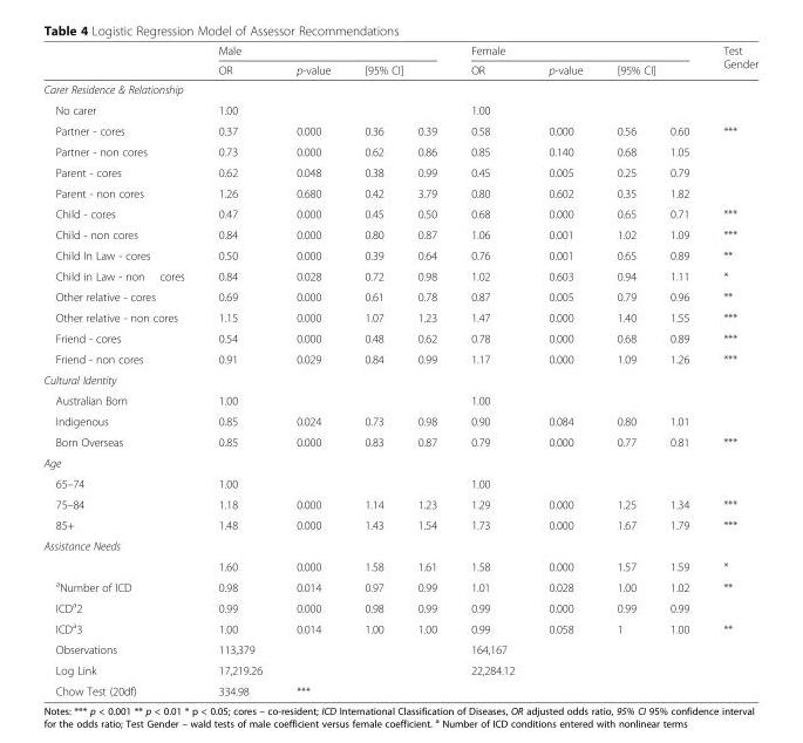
<table><thead><tr><td rowspan="2"></td><td colspan="4">Male</td><td colspan="4">Female</td><td rowspan="2">Test Gender</td></tr><tr><td>OR</td><td>p-value</td><td colspan="2">[95% CI]</td><td>OR</td><td>p-value</td><td colspan="2">[95% CI]</td></tr><tr><td colspan="10">Carer Residence &amp; Relationship</td></tr><tr><td>No carer</td><td>1.00</td><td></td><td></td><td></td><td>1.00</td><td></td><td></td><td></td><td></td></tr></thead><tbody><tr><td>Partner - cores</td><td>0.37</td><td>0.000</td><td>0.36</td><td>0.39</td><td>0.58</td><td>0.000</td><td>0.56</td><td>0.60</td><td>***</td></tr><tr><td>Partner - non cores</td><td>0.73</td><td>0.000</td><td>0.62</td><td>0.86</td><td>0.85</td><td>0.140</td><td>0.68</td><td>1.05</td><td></td></tr><tr><td>Parent - cores</td><td>0.62</td><td>0.048</td><td>0.38</td><td>0.99</td><td>0.45</td><td>0.005</td><td>0.25</td><td>0.79</td><td></td></tr><tr><td>Parent - non cores</td><td>1.26</td><td>0.680</td><td>0.42</td><td>3.79</td><td>0.80</td><td>0.602</td><td>0.35</td><td>1.82</td><td></td></tr><tr><td>Child - cores</td><td>0.47</td><td>0.000</td><td>0.45</td><td>0.50</td><td>0.68</td><td>0.000</td><td>0.65</td><td>0.71</td><td>***</td></tr><tr><td>Child - non cores</td><td>0.84</td><td>0.000</td><td>0.80</td><td>0.87</td><td>1.06</td><td>0.001</td><td>1.02</td><td>1.09</td><td>***</td></tr><tr><td>Child In Law - cores</td><td>0.50</td><td>0.000</td><td>0.39</td><td>0.64</td><td>0.76</td><td>0.001</td><td>0.65</td><td>0.89</td><td>**</td></tr><tr><td>Child in Law - non cores</td><td>0.84</td><td>0.028</td><td>0.72</td><td>0.98</td><td>1.02</td><td>0.603</td><td>0.94</td><td>1.11</td><td>*</td></tr><tr><td>Other relative - cores</td><td>0.69</td><td>0.000</td><td>0.61</td><td>0.78</td><td>0.87</td><td>0.005</td><td>0.79</td><td>0.96</td><td>**</td></tr><tr><td>Other relative - non cores</td><td>1.15</td><td>0.000</td><td>1.07</td><td>1.23</td><td>1.47</td><td>0.000</td><td>1.40</td><td>1.55</td><td>***</td></tr><tr><td>Friend - cores</td><td>0.54</td><td>0.000</td><td>0.48</td><td>0.62</td><td>0.78</td><td>0.000</td><td>0.68</td><td>0.89</td><td>***</td></tr><tr><td>Friend - non cores</td><td>0.91</td><td>0.029</td><td>0.84</td><td>0.99</td><td>1.17</td><td>0.000</td><td>1.09</td><td>1.26</td><td>***</td></tr><tr><td colspan="10">Cultural Identity</td></tr><tr><td>Australian Born</td><td>1.00</td><td></td><td></td><td></td><td>1.00</td><td></td><td></td><td></td><td></td></tr><tr><td>Indigenous</td><td>0.85</td><td>0.024</td><td>0.73</td><td>0.98</td><td>0.90</td><td>0.084</td><td>0.80</td><td>1.01</td><td></td></tr><tr><td>Born Overseas</td><td>0.85</td><td>0.000</td><td>0.83</td><td>0.87</td><td>0.79</td><td>0.000</td><td>0.77</td><td>0.81</td><td>***</td></tr><tr><td colspan="10">Age</td></tr><tr><td>65–74</td><td>1.00</td><td></td><td></td><td></td><td>1.00</td><td></td><td></td><td></td><td></td></tr><tr><td>75–84</td><td>1.18</td><td>0.000</td><td>1.14</td><td>1.23</td><td>1.29</td><td>0.000</td><td>1.25</td><td>1.34</td><td>***</td></tr><tr><td>85+</td><td>1.48</td><td>0.000</td><td>1.43</td><td>1.54</td><td>1.73</td><td>0.000</td><td>1.67</td><td>1.79</td><td>***</td></tr><tr><td colspan="10">Assistance Needs</td></tr><tr><td></td><td>1.60</td><td>0.000</td><td>1.58</td><td>1.61</td><td>1.58</td><td>0.000</td><td>1.57</td><td>1.59</td><td>*</td></tr><tr><td><sup>a</sup>Number of ICD</td><td>0.98</td><td>0.014</td><td>0.97</td><td>0.99</td><td>1.01</td><td>0.028</td><td>1.00</td><td>1.02</td><td>**</td></tr><tr><td>ICD<sup>a</sup>2</td><td>0.99</td><td>0.000</td><td>0.98</td><td>0.99</td><td>0.99</td><td>0.000</td><td>0.99</td><td>0.99</td><td></td></tr><tr><td>ICD<sup>a</sup>3</td><td>1.00</td><td>0.014</td><td>1.00</td><td>1.00</td><td>0.99</td><td>0.058</td><td>1</td><td>1.00</td><td>**</td></tr><tr><td>Observations</td><td>113,379</td><td></td><td></td><td></td><td>164,167</td><td></td><td></td><td></td><td></td></tr><tr><td>Log Link</td><td>17,219.26</td><td></td><td></td><td></td><td>22,284.12</td><td></td><td></td><td></td><td></td></tr><tr><td>Chow Test (20df)</td><td>334.98</td><td>***</td><td></td><td></td><td></td><td></td><td></td><td></td><td></td></tr></tbody></table>